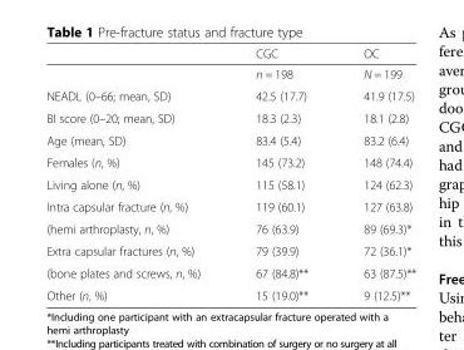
<table><thead><tr><td></td><td>CGC</td><td>OC</td></tr></thead><tbody><tr><td></td><td>n = 198</td><td>N = 199</td></tr><tr><td>NEADL (0–66; mean, SD)</td><td>42.5 (17.7)</td><td>41.9 (17.5)</td></tr><tr><td>BI score (0–20; mean, SD)</td><td>18.3 (2.3)</td><td>18.1 (2.8)</td></tr><tr><td>Age (mean, SD)</td><td>83.4 (5.4)</td><td>83.2 (6.4)</td></tr><tr><td>Females (n, %)</td><td>145 (73.2)</td><td>148 (74.4)</td></tr><tr><td>Living alone (n, %)</td><td>115 (58.1)</td><td>124 (62.3)</td></tr><tr><td>Intra capsular fracture (n, %)</td><td>119 (60.1)</td><td>127 (63.8)</td></tr><tr><td>(hemi arthroplasty, n, %)</td><td>76 (63.9)</td><td>89 (69.3)*</td></tr><tr><td>Extra capsular fractures (n, %)</td><td>79 (39.9)</td><td>72 (36.1)*</td></tr><tr><td>(bone plates and screws, n, %)</td><td>67 (84.8)**</td><td>63 (87.5)**</td></tr><tr><td>Other (n, %)</td><td>15 (19.0)**</td><td>9 (12.5)**</td></tr></tbody></table>